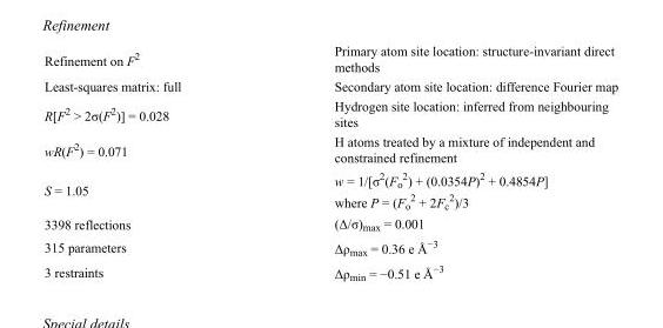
<table><tbody><tr><td>Refinement on F<sup>2</sup></td><td>Primary atom site location: structure-invariant direct methods</td></tr><tr><td>Least-squares matrix: full</td><td>Secondary atom site location: difference Fourier map</td></tr><tr><td>R[F<sup>2</sup> &gt; 2σ(F<sup>2</sup>)] = 0.028</td><td>Hydrogen site location: inferred from neighbouring sites</td></tr><tr><td>wR(F<sup>2</sup>) = 0.071</td><td>H atoms treated by a mixture of independent and constrained refinement</td></tr><tr><td>S = 1.05</td><td>w = 1/[σ<sup>2</sup>(F<sub>o</sub> <sup>2</sup>) + (0.0354P)<sup>2</sup> + 0.4854P] where P = (F<sub>o</sub> <sup>2</sup> + 2F<sub>c</sub> <sup>2</sup>)/3</td></tr><tr><td>3398 reflections</td><td>(Δ/σ)<sub>max</sub> = 0.001</td></tr><tr><td>315 parameters</td><td>Δρ<sub>max</sub> = 0.36 e Å<sup>−3</sup></td></tr><tr><td>3 restraints</td><td>Δρ<sub>min</sub> = −0.51 e Å<sup>−3</sup></td></tr></tbody></table>